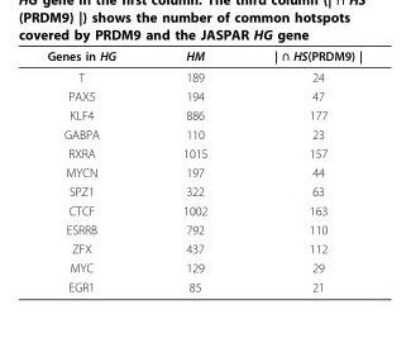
<table><thead><tr><td>Genes in HG</td><td>HM</td><td>| ∩ HS(PRDM9) |</td></tr></thead><tbody><tr><td>T</td><td>189</td><td>24</td></tr><tr><td>PAX5</td><td>194</td><td>47</td></tr><tr><td>KLF4</td><td>886</td><td>177</td></tr><tr><td>GABPA</td><td>110</td><td>23</td></tr><tr><td>RXRA</td><td>1015</td><td>157</td></tr><tr><td>MYCN</td><td>197</td><td>44</td></tr><tr><td>SPZ1</td><td>322</td><td>63</td></tr><tr><td>CTCF</td><td>1002</td><td>163</td></tr><tr><td>ESRRB</td><td>792</td><td>110</td></tr><tr><td>ZFX</td><td>437</td><td>112</td></tr><tr><td>MYC</td><td>129</td><td>29</td></tr><tr><td>EGR1</td><td>85</td><td>21</td></tr></tbody></table>